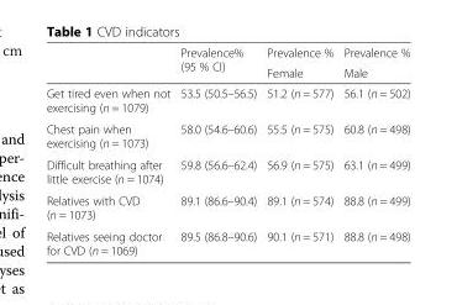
<table><thead><tr><td rowspan="2"></td><td rowspan="2">Prevalence% (95 % CI)</td><td rowspan="2">Prevalence % Female</td><td rowspan="2">Prevalence % Male</td></tr><tr></tr></thead><tbody><tr><td>Get tired even when not exercising (n = 1079)</td><td>53.5 (50.5–56.5)</td><td>51.2 (n = 577)</td><td>56.1 (n = 502)</td></tr><tr><td>Chest pain when exercising (n = 1073)</td><td>58.0 (54.6–60.6)</td><td>55.5 (n = 575)</td><td>60.8 (n = 498)</td></tr><tr><td>Difficult breathing after little exercise (n = 1074)</td><td>59.8 (56.6–62.4)</td><td>56.9 (n = 575)</td><td>63.1 (n = 499)</td></tr><tr><td>Relatives with CVD (n = 1073)</td><td>89.1 (86.6–90.4)</td><td>89.1 (n = 574)</td><td>88.8 (n = 499)</td></tr><tr><td>Relatives seeing doctor for CVD (n = 1069)</td><td>89.5 (86.8–90.6)</td><td>90.1 (n = 571)</td><td>88.8 (n = 498)</td></tr></tbody></table>